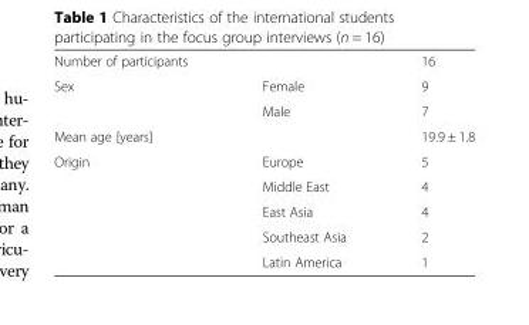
<table><tbody><tr><td>Number of participants</td><td></td><td>16</td></tr><tr><td rowspan="2">Sex</td><td>Female</td><td>9</td></tr><tr><td>Male</td><td>7</td></tr><tr><td>Mean age [years]</td><td></td><td>19.9 ± 1.8</td></tr><tr><td rowspan="5">Origin</td><td>Europe</td><td>5</td></tr><tr><td>Middle East</td><td>4</td></tr><tr><td>East Asia</td><td>4</td></tr><tr><td>Southeast Asia</td><td>2</td></tr><tr><td>Latin America</td><td>1</td></tr></tbody></table>